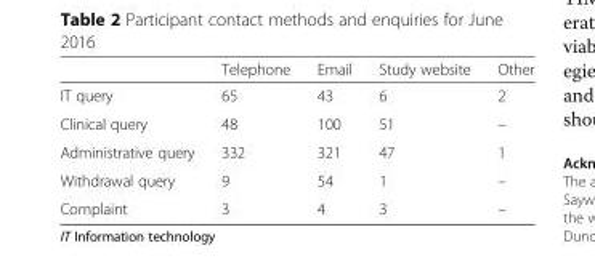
<table><thead><tr><td></td><td>Telephone</td><td>Email</td><td>Study website</td><td>Other</td></tr></thead><tbody><tr><td>IT query</td><td>65</td><td>43</td><td>6</td><td>2</td></tr><tr><td>Clinical query</td><td>48</td><td>100</td><td>51</td><td>–</td></tr><tr><td>Administrative query</td><td>332</td><td>321</td><td>47</td><td>1</td></tr><tr><td>Withdrawal query</td><td>9</td><td>54</td><td>1</td><td>–</td></tr><tr><td>Complaint</td><td>3</td><td>4</td><td>3</td><td>–</td></tr></tbody></table>